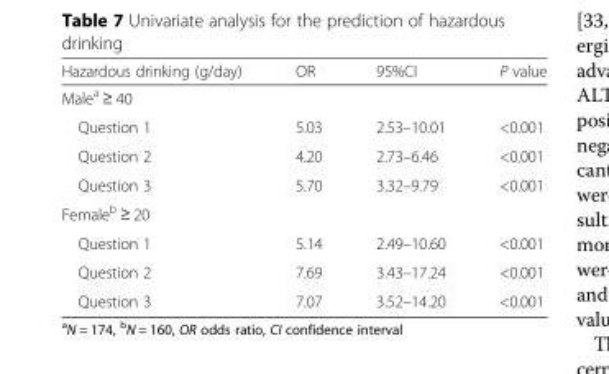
<table><thead><tr><td>Hazardous drinking (g/day)</td><td>OR</td><td>95%CI</td><td>P value</td></tr></thead><tbody><tr><td colspan="4">Male<sup>a</sup> ≥ 40</td></tr><tr><td>Question 1</td><td>5.03</td><td>2.53–10.01</td><td>&lt;0.001</td></tr><tr><td>Question 2</td><td>4.20</td><td>2.73–6.46</td><td>&lt;0.001</td></tr><tr><td>Question 3</td><td>5.70</td><td>3.32–9.79</td><td>&lt;0.001</td></tr><tr><td colspan="4">Female<sup>b</sup> ≥ 20</td></tr><tr><td>Question 1</td><td>5.14</td><td>2.49–10.60</td><td>&lt;0.001</td></tr><tr><td>Question 2</td><td>7.69</td><td>3.43–17.24</td><td>&lt;0.001</td></tr><tr><td>Question 3</td><td>7.07</td><td>3.52–14.20</td><td>&lt;0.001</td></tr></tbody></table>